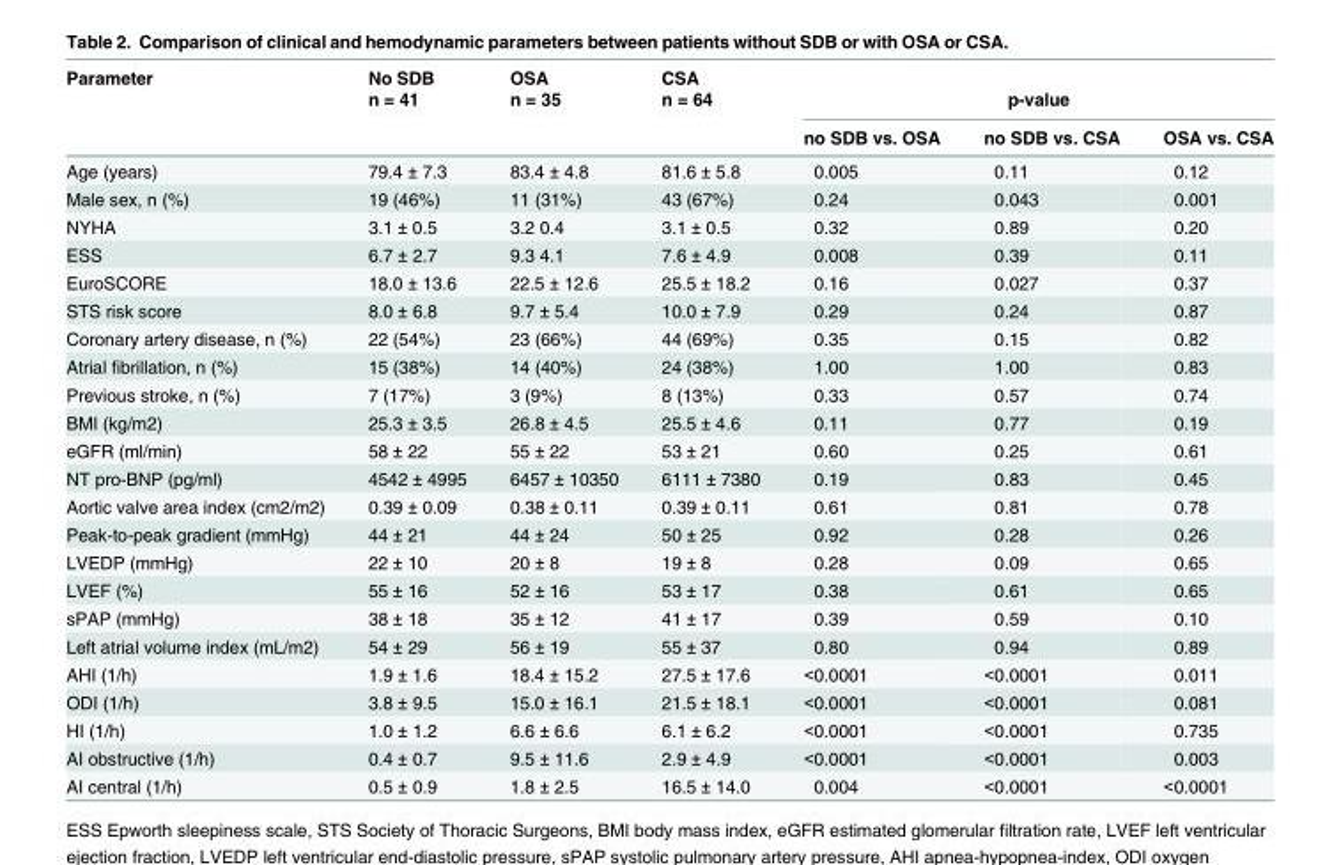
<table><thead><tr><td rowspan="3">Parameter</td><td rowspan="3">No SDB n = 41</td><td rowspan="3">OSA n = 35</td><td rowspan="3">CSA n = 64</td><td></td><td></td><td></td></tr><tr><td colspan="3">p-value</td></tr><tr><td>no SDB vs. OSA</td><td>no SDB vs. CSA</td><td>OSA vs. CSA</td></tr></thead><tbody><tr><td>Age (years)</td><td>79.4 ± 7.3</td><td>83.4 ± 4.8</td><td>81.6 ± 5.8</td><td>0.005</td><td>0.11</td><td>0.12</td></tr><tr><td>Male sex, n (%)</td><td>19 (46%)</td><td>11 (31%)</td><td>43 (67%)</td><td>0.24</td><td>0.043</td><td>0.001</td></tr><tr><td>NYHA</td><td>3.1 ± 0.5</td><td>3.2 0.4</td><td>3.1 ± 0.5</td><td>0.32</td><td>0.89</td><td>0.20</td></tr><tr><td>ESS</td><td>6.7 ± 2.7</td><td>9.3 4.1</td><td>7.6 ± 4.9</td><td>0.008</td><td>0.39</td><td>0.11</td></tr><tr><td>EuroSCORE</td><td>18.0 ± 13.6</td><td>22.5 ± 12.6</td><td>25.5 ± 18.2</td><td>0.16</td><td>0.027</td><td>0.37</td></tr><tr><td>STS risk score</td><td>8.0 ± 6.8</td><td>9.7 ± 5.4</td><td>10.0 ± 7.9</td><td>0.29</td><td>0.24</td><td>0.87</td></tr><tr><td>Coronary artery disease, n (%)</td><td>22 (54%)</td><td>23 (66%)</td><td>44 (69%)</td><td>0.35</td><td>0.15</td><td>0.82</td></tr><tr><td>Atrial fibrillation, n (%)</td><td>15 (38%)</td><td>14 (40%)</td><td>24 (38%)</td><td>1.00</td><td>1.00</td><td>0.83</td></tr><tr><td>Previous stroke, n (%)</td><td>7 (17%)</td><td>3 (9%)</td><td>8 (13%)</td><td>0.33</td><td>0.57</td><td>0.74</td></tr><tr><td>BMI (kg/m2)</td><td>25.3 ± 3.5</td><td>26.8 ± 4.5</td><td>25.5 ± 4.6</td><td>0.11</td><td>0.77</td><td>0.19</td></tr><tr><td>eGFR (ml/min)</td><td>58 ± 22</td><td>55 ± 22</td><td>53 ± 21</td><td>0.60</td><td>0.25</td><td>0.61</td></tr><tr><td>NT pro-BNP (pg/ml)</td><td>4542 ± 4995</td><td>6457 ± 10350</td><td>6111 ± 7380</td><td>0.19</td><td>0.83</td><td>0.45</td></tr><tr><td>Aortic valve area index (cm2/m2)</td><td>0.39 ± 0.09</td><td>0.38 ± 0.11</td><td>0.39 ± 0.11</td><td>0.61</td><td>0.81</td><td>0.78</td></tr><tr><td>Peak-to-peak gradient (mmHg)</td><td>44 ± 21</td><td>44 ± 24</td><td>50 ± 25</td><td>0.92</td><td>0.28</td><td>0.26</td></tr><tr><td>LVEDP (mmHg)</td><td>22 ± 10</td><td>20 ± 8</td><td>19 ± 8</td><td>0.28</td><td>0.09</td><td>0.65</td></tr><tr><td>LVEF (%)</td><td>55 ± 16</td><td>52 ± 16</td><td>53 ± 17</td><td>0.38</td><td>0.61</td><td>0.65</td></tr><tr><td>sPAP (mmHg)</td><td>38 ± 18</td><td>35 ± 12</td><td>41 ± 17</td><td>0.39</td><td>0.59</td><td>0.10</td></tr><tr><td>Left atrial volume index (mL/m2)</td><td>54 ± 29</td><td>56 ± 19</td><td>55 ± 37</td><td>0.80</td><td>0.94</td><td>0.89</td></tr><tr><td>AHI (1/h)</td><td>1.9 ± 1.6</td><td>18.4 ± 15.2</td><td>27.5 ± 17.6</td><td>&lt;0.0001</td><td>&lt;0.0001</td><td>0.011</td></tr><tr><td>ODI (1/h)</td><td>3.8 ± 9.5</td><td>15.0 ± 16.1</td><td>21.5 ± 18.1</td><td>&lt;0.0001</td><td>&lt;0.0001</td><td>0.081</td></tr><tr><td>HI (1/h)</td><td>1.0 ± 1.2</td><td>6.6 ± 6.6</td><td>6.1 ± 6.2</td><td>&lt;0.0001</td><td>&lt;0.0001</td><td>0.735</td></tr><tr><td>AI obstructive (1/h)</td><td>0.4 ± 0.7</td><td>9.5 ± 11.6</td><td>2.9 ± 4.9</td><td>&lt;0.0001</td><td>&lt;0.0001</td><td>0.003</td></tr><tr><td>AI central (1/h)</td><td>0.5 ± 0.9</td><td>1.8 ± 2.5</td><td>16.5 ± 14.0</td><td>0.004</td><td>&lt;0.0001</td><td>&lt;0.0001</td></tr></tbody></table>